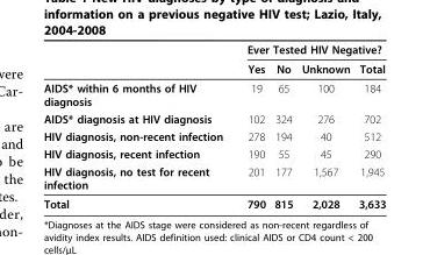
<table><thead><tr><td rowspan="2"></td><td colspan="4">Ever Tested HIV Negative?</td></tr><tr><td>Yes</td><td>No</td><td>Unknown</td><td>Total</td></tr></thead><tbody><tr><td>AIDS* within 6 months of HIV diagnosis</td><td>19</td><td>65</td><td>100</td><td>184</td></tr><tr><td>AIDS* diagnosis at HIV diagnosis</td><td>102</td><td>324</td><td>276</td><td>702</td></tr><tr><td>HIV diagnosis, non-recent infection</td><td>278</td><td>194</td><td>40</td><td>512</td></tr><tr><td>HIV diagnosis, recent infection</td><td>190</td><td>55</td><td>45</td><td>290</td></tr><tr><td>HIV diagnosis, no test for recent infection</td><td>201</td><td>177</td><td>1,567</td><td>1,945</td></tr><tr><td>Total</td><td>790</td><td>815</td><td>2,028</td><td>3,633</td></tr></tbody></table>